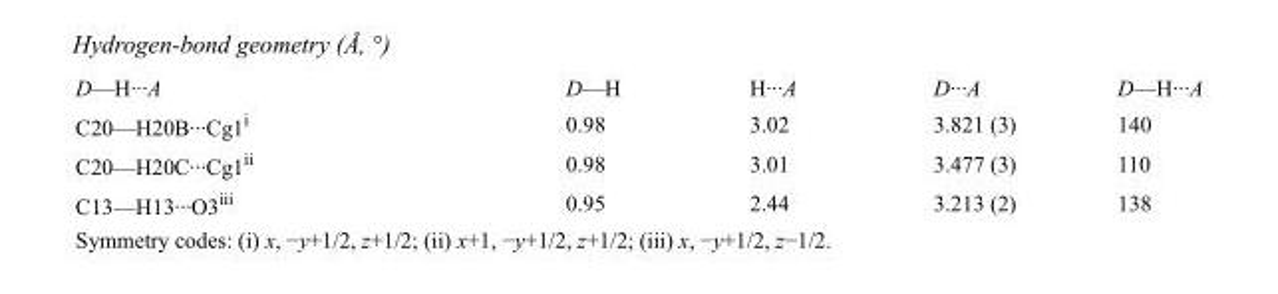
<table><tbody><tr><td>D—H···A</td><td>D—H</td><td>H···A</td><td>D···A</td><td>D—H···A</td></tr><tr><td>C20—H20B···Cg1<sup>i</sup></td><td>0.98</td><td>3.02</td><td>3.821 (3)</td><td>140</td></tr><tr><td>C20—H20C···Cg1<sup>ii</sup></td><td>0.98</td><td>3.01</td><td>3.477 (3)</td><td>110</td></tr><tr><td>C13—H13···O3<sup>iii</sup></td><td>0.95</td><td>2.44</td><td>3.213 (2)</td><td>138</td></tr></tbody></table>